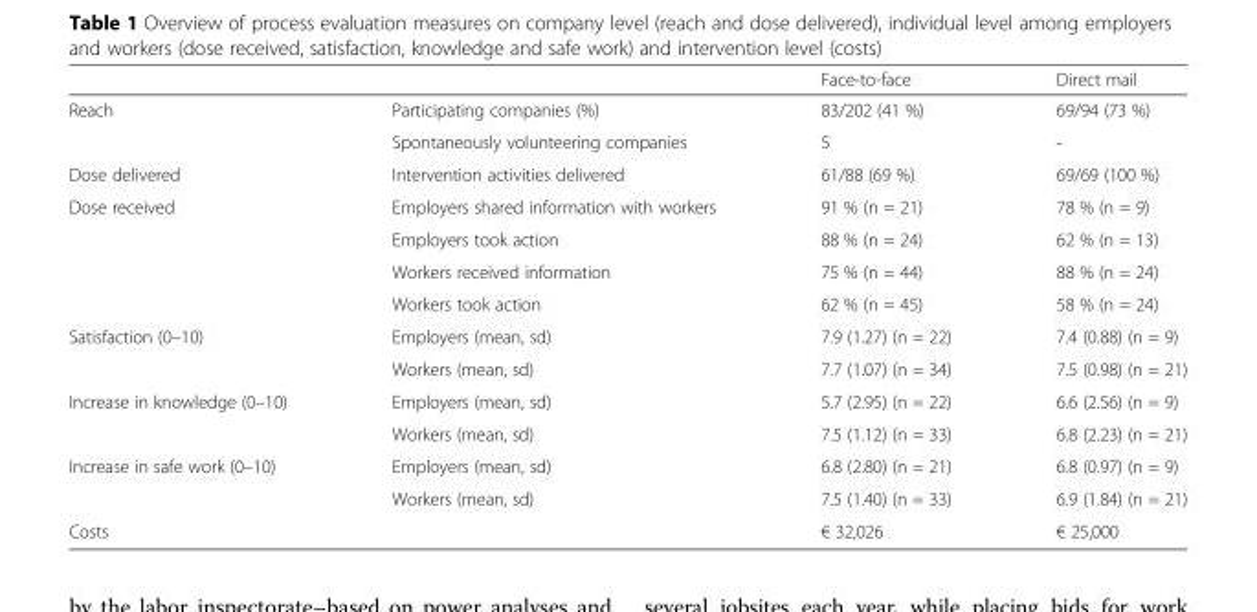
<table><thead><tr><td></td><td></td><td>Face-to-face</td><td>Direct mail</td></tr></thead><tbody><tr><td rowspan="2">Reach</td><td>Participating companies (%)</td><td>83/202 (41 %)</td><td>69/94 (73 %)</td></tr><tr><td>Spontaneously volunteering companies</td><td>5</td><td>-</td></tr><tr><td>Dose delivered</td><td>Intervention activities delivered</td><td>61/88 (69 %)</td><td>69/69 (100 %)</td></tr><tr><td rowspan="4">Dose received</td><td>Employers shared information with workers</td><td>91 % (n = 21)</td><td>78 % (n = 9)</td></tr><tr><td>Employers took action</td><td>88 % (n = 24)</td><td>62 % (n = 13)</td></tr><tr><td>Workers received information</td><td>75 % (n = 44)</td><td>88 % (n = 24)</td></tr><tr><td>Workers took action</td><td>62 % (n = 45)</td><td>58 % (n = 24)</td></tr><tr><td rowspan="2">Satisfaction (0–10)</td><td>Employers (mean, sd)</td><td>7.9 (1.27) (n = 22)</td><td>7.4 (0.88) (n = 9)</td></tr><tr><td>Workers (mean, sd)</td><td>7.7 (1.07) (n = 34)</td><td>7.5 (0.98) (n = 21)</td></tr><tr><td rowspan="2">Increase in knowledge (0–10)</td><td>Employers (mean, sd)</td><td>5.7 (2.95) (n = 22)</td><td>6.6 (2.56) (n = 9)</td></tr><tr><td>Workers (mean, sd)</td><td>7.5 (1.12) (n = 33)</td><td>6.8 (2.23) (n = 21)</td></tr><tr><td rowspan="2">Increase in safe work (0–10)</td><td>Employers (mean, sd)</td><td>6.8 (2.80) (n = 21)</td><td>6.8 (0.97) (n = 9)</td></tr><tr><td>Workers (mean, sd)</td><td>7.5 (1.40) (n = 33)</td><td>6.9 (1.84) (n = 21)</td></tr><tr><td>Costs</td><td></td><td>€ 32,026</td><td>€ 25,000</td></tr></tbody></table>